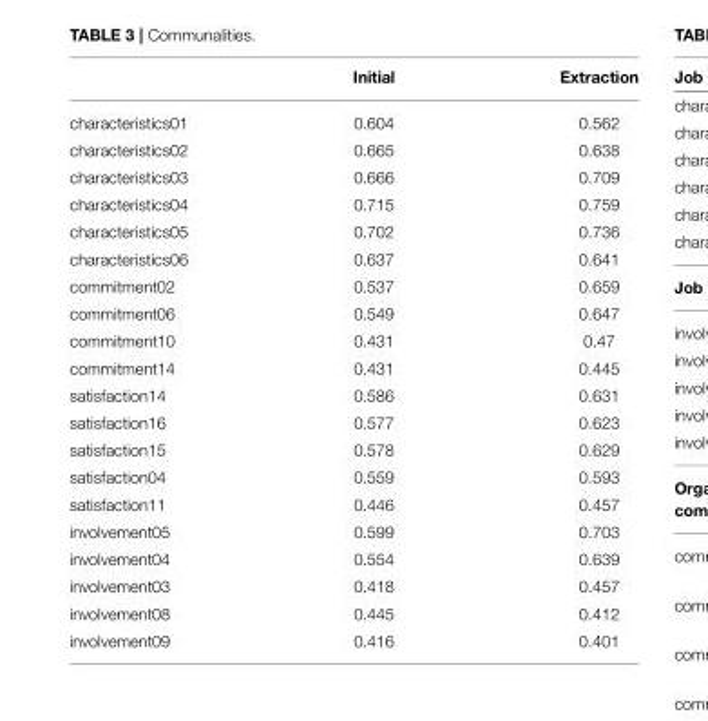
<table><thead><tr><td></td><td>Initial</td><td>Extraction</td></tr></thead><tbody><tr><td>characteristics01</td><td>0.604</td><td>0.562</td></tr><tr><td>characteristics02</td><td>0.665</td><td>0.638</td></tr><tr><td>characteristics03</td><td>0.666</td><td>0.709</td></tr><tr><td>characteristics04</td><td>0.715</td><td>0.759</td></tr><tr><td>characteristics05</td><td>0.702</td><td>0.736</td></tr><tr><td>characteristics06</td><td>0.637</td><td>0.641</td></tr><tr><td>commitment02</td><td>0.537</td><td>0.659</td></tr><tr><td>commitment06</td><td>0.549</td><td>0.647</td></tr><tr><td>commitment10</td><td>0.431</td><td>0.47</td></tr><tr><td>commitment14</td><td>0.431</td><td>0.445</td></tr><tr><td>satisfaction14</td><td>0.586</td><td>0.631</td></tr><tr><td>satisfaction16</td><td>0.577</td><td>0.623</td></tr><tr><td>satisfaction15</td><td>0.578</td><td>0.629</td></tr><tr><td>satisfaction04</td><td>0.559</td><td>0.593</td></tr><tr><td>satisfaction11</td><td>0.446</td><td>0.457</td></tr><tr><td>involvement05</td><td>0.599</td><td>0.703</td></tr><tr><td>involvement04</td><td>0.554</td><td>0.639</td></tr><tr><td>involvement03</td><td>0.418</td><td>0.457</td></tr><tr><td>involvement08</td><td>0.445</td><td>0.412</td></tr><tr><td>involvement09</td><td>0.416</td><td>0.401</td></tr></tbody></table>